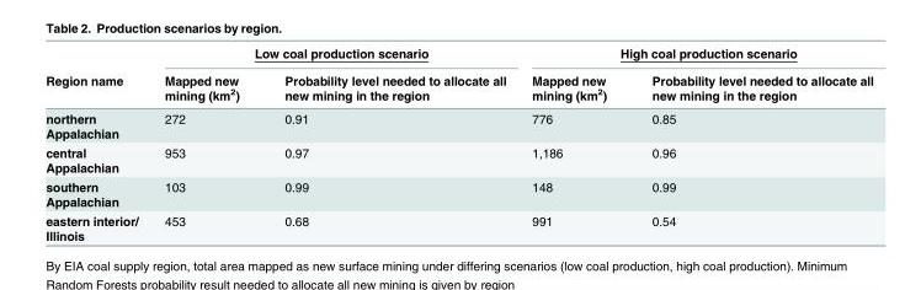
<table><thead><tr><td rowspan="2">Region name</td><td colspan="2">Low coal production scenario</td><td colspan="2">High coal production scenario</td></tr><tr><td>Mapped new mining (km<sup>2</sup>)</td><td>Probability level needed to allocate all new mining in the region</td><td>Mapped new mining (km<sup>2</sup>)</td><td>Probability level needed to allocate all new mining in the region</td></tr></thead><tbody><tr><td>northern Appalachian</td><td>272</td><td>0.91</td><td>776</td><td>0.85</td></tr><tr><td>central Appalachian</td><td>953</td><td>0.97</td><td>1,186</td><td>0.96</td></tr><tr><td>southern Appalachian</td><td>103</td><td>0.99</td><td>148</td><td>0.99</td></tr><tr><td>eastern interior/ Illinois</td><td>453</td><td>0.68</td><td>991</td><td>0.54</td></tr></tbody></table>